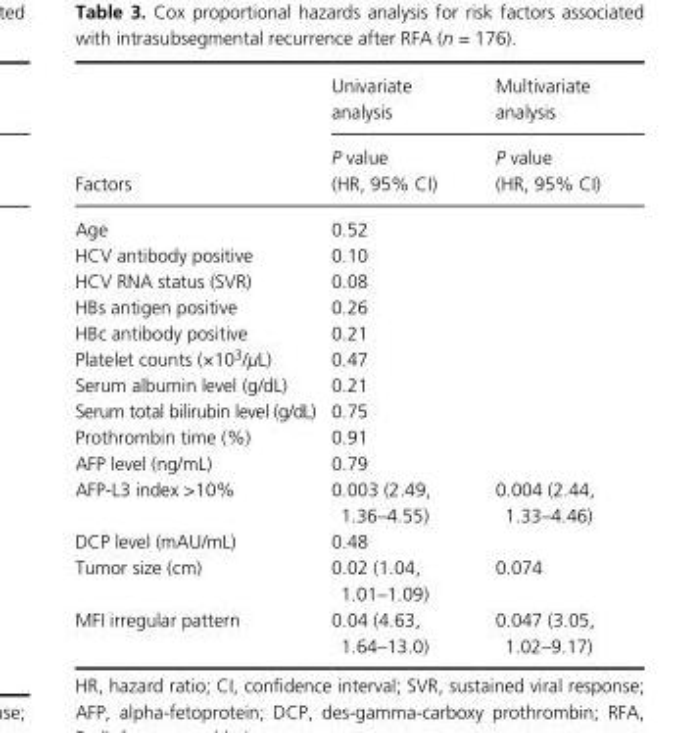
<table><thead><tr><td rowspan="2">Factors</td><td rowspan="2">Univariate analysis P value (HR, 95% CI)</td><td rowspan="2">Multivariate analysis P value (HR, 95% CI)</td></tr><tr></tr></thead><tbody><tr><td>Age</td><td>0.52</td><td></td></tr><tr><td>HCV antibody positive</td><td>0.10</td><td></td></tr><tr><td>HCV RNA status (SVR)</td><td>0.08</td><td></td></tr><tr><td>HBs antigen positive</td><td>0.26</td><td></td></tr><tr><td>HBc antibody positive</td><td>0.21</td><td></td></tr><tr><td>Platelet counts (×10<sup>3</sup>/μL)</td><td>0.47</td><td></td></tr><tr><td>Serum albumin level (g/dL)</td><td>0.21</td><td></td></tr><tr><td>Serum total bilirubin level (g/dL)</td><td>0.75</td><td></td></tr><tr><td>Prothrombin time (%)</td><td>0.91</td><td></td></tr><tr><td>AFP level (ng/mL)</td><td>0.79</td><td></td></tr><tr><td>AFP- L3 index &gt;10%</td><td>0.003 (2.49, 1.36–4.55)</td><td>0.004 (2.44, 1.33–4.46)</td></tr><tr><td>DCP level (mAU/mL)</td><td>0.48</td><td></td></tr><tr><td>Tumor size (cm)</td><td>0.02 (1.04, 1.01–1.09)</td><td>0.074</td></tr><tr><td>MFI irregular pattern</td><td>0.04 (4.63, 1.64–13.0)</td><td>0.047 (3.05, 1.02–9.17)</td></tr></tbody></table>